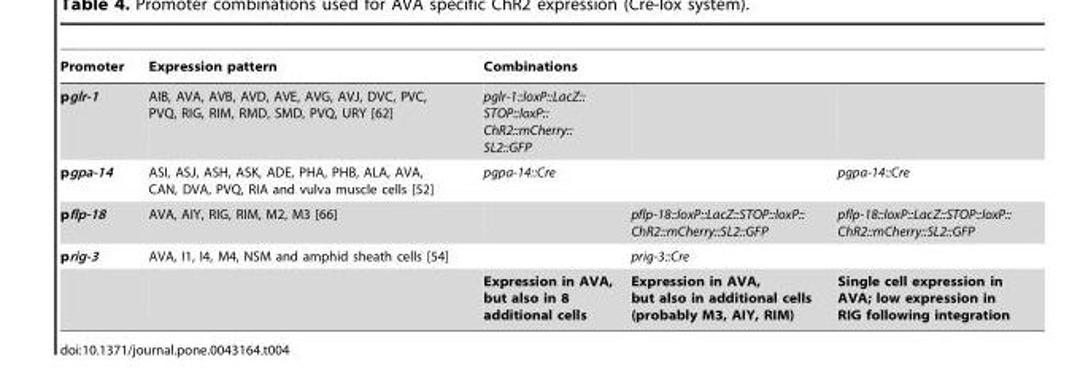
<table><thead><tr><td rowspan="2">Promoter pglr-1</td><td rowspan="2">Expression pattern AIB, AVA, AVB, AVD, AVE, AVG, AVJ, DVC, PVC, PVQ, RIG, RIM, RMD, SMD, PVQ, URY [62]</td><td colspan="3">Combinations</td></tr><tr><td>pglr-1::loxP::LacZ:: STOP::loxP:: ChR2::mCherry:: SL2::GFP</td><td></td><td></td></tr></thead><tbody><tr><td>pgpa-14</td><td>ASI, ASJ, ASH, ASK, ADE, PHA, PHB, ALA, AVA, CAN, DVA, PVQ, RIA and vulva muscle cells [52]</td><td>pgpa-14::Cre</td><td></td><td>pgpa-14::Cre</td></tr><tr><td>pflp-18</td><td>AVA, AIY, RIG, RIM, M2, M3 [66]</td><td></td><td>pflp-18::loxP::LacZ::STOP::loxP:: ChR2::mCherry::SL2::GFP</td><td>pflp-18::loxP::LacZ::STOP::loxP:: ChR2::mCherry::SL2::GFP</td></tr><tr><td rowspan="2">prig-3</td><td>AVA, I1, I4, M4, NSM and amphid sheath cells [54]</td><td></td><td>prig-3::Cre</td><td></td></tr><tr><td></td><td>Expression in AVA, but also in 8 additional cells</td><td>Expression in AVA, but also in additional cells (probably M3, AIY, RIM)</td><td>Single cell expression in AVA; low expression in RIG following integration</td></tr></tbody></table>